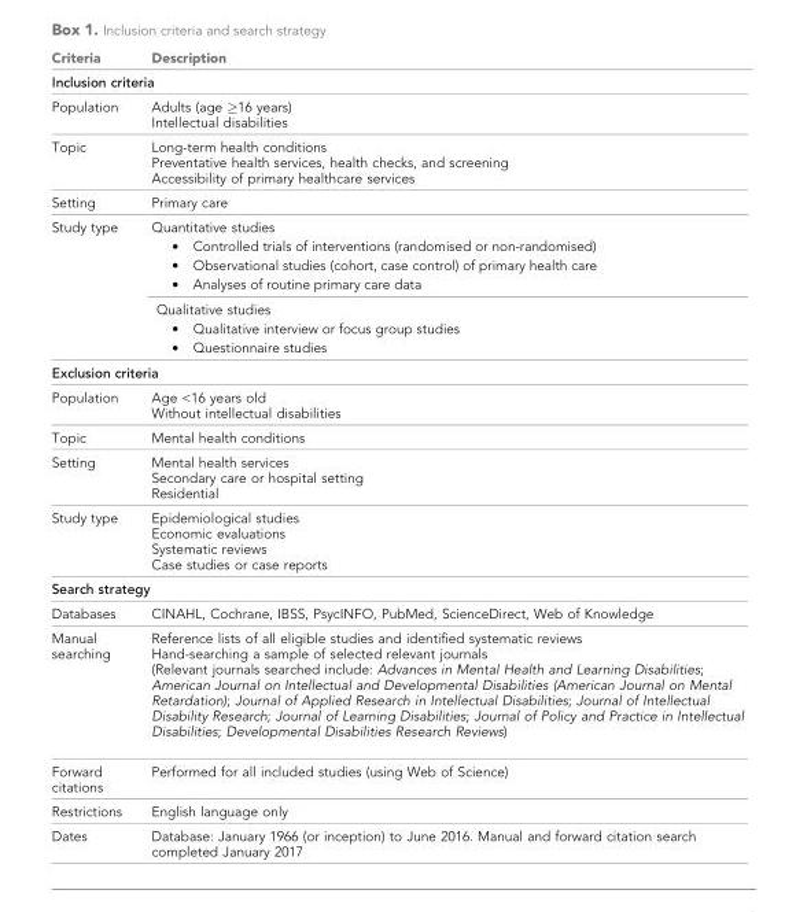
<table><thead><tr><td>Criteria</td><td>Description</td></tr></thead><tbody><tr><td colspan="2">Inclusion criteria</td></tr><tr><td>Population</td><td>Adults (age ≥16 years) Intellectual disabilities</td></tr><tr><td>Topic</td><td>Long-term health conditions Preventative health services, health checks, and screening Accessibility of primary healthcare services</td></tr><tr><td>Setting</td><td>Primary care</td></tr><tr><td rowspan="2">Study type</td><td>Quantitative studies . Controlled trials of interventions (randomised or non-randomised) . Observational studies (cohort, case control) of primary health care . Analyses of routine primary care data</td></tr><tr><td>Qualitative studies . Qualitative interview or focus group studies . Questionnaire studies</td></tr><tr><td colspan="2">Exclusion criteria</td></tr><tr><td>Population</td><td>Age &lt;16 years old Without intellectual disabilities</td></tr><tr><td>Topic</td><td>Mental health conditions</td></tr><tr><td>Setting</td><td>Mental health services Secondary care or hospital setting Residential</td></tr><tr><td>Study type</td><td>Epidemiological studies Economic evaluations Systematic reviews Case studies or case reports</td></tr><tr><td colspan="2">Search strategy</td></tr><tr><td>Databases</td><td>CINAHL, Cochrane, IBSS, PsycINFO, PubMed, ScienceDirect, Web of Knowledge</td></tr><tr><td>Manual searching</td><td>Reference lists of all eligible studies and identified systematic reviews Hand-searching a sample of selected relevant journals (Relevant journals searched include: Advances in Mental Health and Learning Disabilities; American Journal on Intellectual and Developmental Disabilities (American Journal on Mental Retardation); Journal of Applied Research in Intellectual Disabilities; Journal of Intellectual Disability Research; Journal of Learning Disabilities; Journal of Policy and Practice in Intellectual Disabilities; Developmental Disabilities Research Reviews)</td></tr><tr><td>Forward citations</td><td>Performed for all included studies (using Web of Science)</td></tr><tr><td>Restrictions</td><td>English language only</td></tr><tr><td>Dates</td><td>Database: January 1966 (or inception) to June 2016. Manual and forward citation search completed January 2017</td></tr></tbody></table>